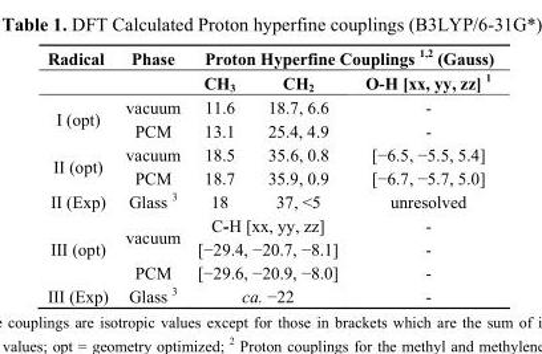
<table><thead><tr><td rowspan="2">Radical</td><td rowspan="2">Phase</td><td colspan="3">Proton Hyperfine Couplings <sup>1,2</sup> (Gauss)</td></tr><tr><td>CH<sub>3</sub></td><td>CH<sub>2</sub></td><td>O-H [xx, yy, zz] <sup>1</sup></td></tr></thead><tbody><tr><td rowspan="2">I (opt)</td><td>vacuum</td><td>11.6</td><td>18.7, 6.6</td><td>-</td></tr><tr><td>PCM</td><td>13.1</td><td>25.4, 4.9</td><td>-</td></tr><tr><td rowspan="2">II (opt)</td><td>vacuum</td><td>18.5</td><td>35.6, 0.8</td><td>[−6.5, −5.5, 5.4]</td></tr><tr><td>PCM</td><td>18.7</td><td>35.9, 0.9</td><td>[−6.7, −5.7, 5.0]</td></tr><tr><td>II (Exp)</td><td>Glass <sup>3</sup></td><td>18</td><td>37, &lt;5</td><td>unresolved</td></tr><tr><td rowspan="3">III (opt)</td><td rowspan="2">vacuum</td><td colspan="2">C-H [xx, yy, zz]</td><td>-</td></tr><tr><td colspan="2">[−29.4, −20.7, −8.1]</td><td>-</td></tr><tr><td>PCM</td><td colspan="2">[−29.6, −20.9, −8.0]</td><td>-</td></tr><tr><td>III (Exp)</td><td>Glass <sup>3</sup></td><td colspan="2">ca. −22</td><td>-</td></tr></tbody></table>